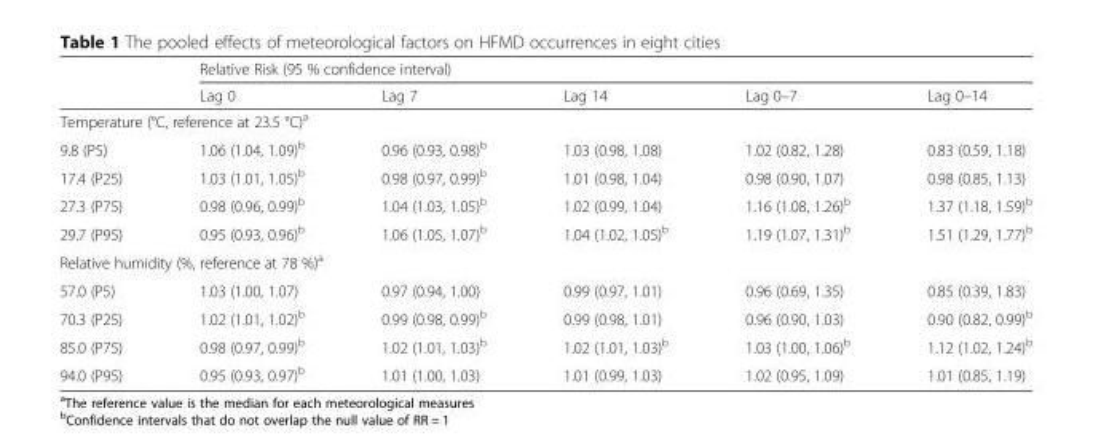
<table><thead><tr><td rowspan="2"></td><td colspan="5">Relative Risk (95 % confidence interval)</td></tr><tr><td>Lag 0</td><td>Lag 7</td><td>Lag 14</td><td>Lag 0–7</td><td>Lag 0–14</td></tr></thead><tbody><tr><td colspan="6">Temperature (°C, reference at 23.5 °C)<sup>a</sup></td></tr><tr><td>9.8 (P5)</td><td>1.06 (1.04, 1.09)<sup>b</sup></td><td>0.96 (0.93, 0.98)<sup>b</sup></td><td>1.03 (0.98, 1.08)</td><td>1.02 (0.82, 1.28)</td><td>0.83 (0.59, 1.18)</td></tr><tr><td>17.4 (P25)</td><td>1.03 (1.01, 1.05)<sup>b</sup></td><td>0.98 (0.97, 0.99)<sup>b</sup></td><td>1.01 (0.98, 1.04)</td><td>0.98 (0.90, 1.07)</td><td>0.98 (0.85, 1.13)</td></tr><tr><td>27.3 (P75)</td><td>0.98 (0.96, 0.99)<sup>b</sup></td><td>1.04 (1.03, 1.05)<sup>b</sup></td><td>1.02 (0.99, 1.04)</td><td>1.16 (1.08, 1.26)<sup>b</sup></td><td>1.37 (1.18, 1.59)<sup>b</sup></td></tr><tr><td>29.7 (P95)</td><td>0.95 (0.93, 0.96)<sup>b</sup></td><td>1.06 (1.05, 1.07)<sup>b</sup></td><td>1.04 (1.02, 1.05)<sup>b</sup></td><td>1.19 (1.07, 1.31)<sup>b</sup></td><td>1.51 (1.29, 1.77)<sup>b</sup></td></tr><tr><td colspan="6">Relative humidity (%, reference at 78 %)<sup>a</sup></td></tr><tr><td>57.0 (P5)</td><td>1.03 (1.00, 1.07)</td><td>0.97 (0.94, 1.00)</td><td>0.99 (0.97, 1.01)</td><td>0.96 (0.69, 1.35)</td><td>0.85 (0.39, 1.83)</td></tr><tr><td>70.3 (P25)</td><td>1.02 (1.01, 1.02)<sup>b</sup></td><td>0.99 (0.98, 0.99)<sup>b</sup></td><td>0.99 (0.98, 1.01)</td><td>0.96 (0.90, 1.03)</td><td>0.90 (0.82, 0.99)<sup>b</sup></td></tr><tr><td>85.0 (P75)</td><td>0.98 (0.97, 0.99)<sup>b</sup></td><td>1.02 (1.01, 1.03)<sup>b</sup></td><td>1.02 (1.01, 1.03)<sup>b</sup></td><td>1.03 (1.00, 1.06)<sup>b</sup></td><td>1.12 (1.02, 1.24)<sup>b</sup></td></tr><tr><td>94.0 (P95)</td><td>0.95 (0.93, 0.97)<sup>b</sup></td><td>1.01 (1.00, 1.03)</td><td>1.01 (0.99, 1.03)</td><td>1.02 (0.95, 1.09)</td><td>1.01 (0.85, 1.19)</td></tr></tbody></table>